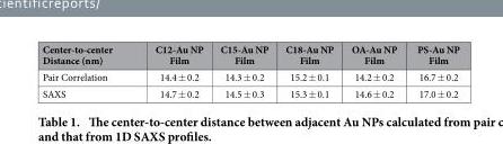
<table><thead><tr><td>Center-to-center Distance (nm)</td><td>C12-Au NP Film</td><td>C15-Au NP Film</td><td>C18-Au NP Film</td><td>OA-Au NP Film</td><td>PS-Au NP Film</td></tr></thead><tbody><tr><td>Pair Correlation</td><td>14.4 ± 0.2</td><td>14.3 ± 0.2</td><td>15.2 ± 0.1</td><td>14.2 ± 0.2</td><td>16.7 ± 0.2</td></tr><tr><td>SAXS</td><td>14.7 ± 0.2</td><td>14.5 ± 0.3</td><td>15.3 ± 0.1</td><td>14.6 ± 0.2</td><td>17.0 ± 0.2</td></tr></tbody></table>